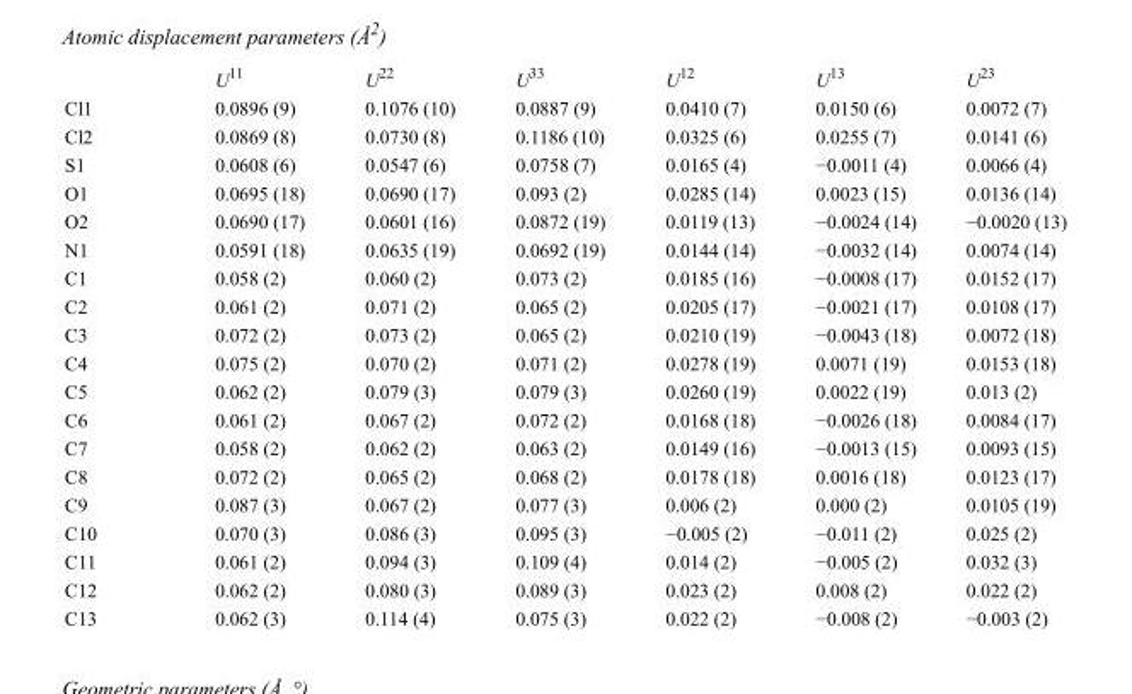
<table><thead><tr><td></td><td>U<sup>11</sup></td><td>U<sup>22</sup></td><td>U<sup>33</sup></td><td>U<sup>12</sup></td><td>U<sup>13</sup></td><td>U<sup>23</sup></td></tr></thead><tbody><tr><td>Cl1</td><td>0.0896 (9)</td><td>0.1076 (10)</td><td>0.0887 (9)</td><td>0.0410 (7)</td><td>0.0150 (6)</td><td>0.0072 (7)</td></tr><tr><td>Cl2</td><td>0.0869 (8)</td><td>0.0730 (8)</td><td>0.1186 (10)</td><td>0.0325 (6)</td><td>0.0255 (7)</td><td>0.0141 (6)</td></tr><tr><td>S1</td><td>0.0608 (6)</td><td>0.0547 (6)</td><td>0.0758 (7)</td><td>0.0165 (4)</td><td>−0.0011 (4)</td><td>0.0066 (4)</td></tr><tr><td>O1</td><td>0.0695 (18)</td><td>0.0690 (17)</td><td>0.093 (2)</td><td>0.0285 (14)</td><td>0.0023 (15)</td><td>0.0136 (14)</td></tr><tr><td>O2</td><td>0.0690 (17)</td><td>0.0601 (16)</td><td>0.0872 (19)</td><td>0.0119 (13)</td><td>−0.0024 (14)</td><td>−0.0020 (13)</td></tr><tr><td>N1</td><td>0.0591 (18)</td><td>0.0635 (19)</td><td>0.0692 (19)</td><td>0.0144 (14)</td><td>−0.0032 (14)</td><td>0.0074 (14)</td></tr><tr><td>C1</td><td>0.058 (2)</td><td>0.060 (2)</td><td>0.073 (2)</td><td>0.0185 (16)</td><td>−0.0008 (17)</td><td>0.0152 (17)</td></tr><tr><td>C2</td><td>0.061 (2)</td><td>0.071 (2)</td><td>0.065 (2)</td><td>0.0205 (17)</td><td>−0.0021 (17)</td><td>0.0108 (17)</td></tr><tr><td>C3</td><td>0.072 (2)</td><td>0.073 (2)</td><td>0.065 (2)</td><td>0.0210 (19)</td><td>−0.0043 (18)</td><td>0.0072 (18)</td></tr><tr><td>C4</td><td>0.075 (2)</td><td>0.070 (2)</td><td>0.071 (2)</td><td>0.0278 (19)</td><td>0.0071 (19)</td><td>0.0153 (18)</td></tr><tr><td>C5</td><td>0.062 (2)</td><td>0.079 (3)</td><td>0.079 (3)</td><td>0.0260 (19)</td><td>0.0022 (19)</td><td>0.013 (2)</td></tr><tr><td>C6</td><td>0.061 (2)</td><td>0.067 (2)</td><td>0.072 (2)</td><td>0.0168 (18)</td><td>−0.0026 (18)</td><td>0.0084 (17)</td></tr><tr><td>C7</td><td>0.058 (2)</td><td>0.062 (2)</td><td>0.063 (2)</td><td>0.0149 (16)</td><td>−0.0013 (15)</td><td>0.0093 (15)</td></tr><tr><td>C8</td><td>0.072 (2)</td><td>0.065 (2)</td><td>0.068 (2)</td><td>0.0178 (18)</td><td>0.0016 (18)</td><td>0.0123 (17)</td></tr><tr><td>C9</td><td>0.087 (3)</td><td>0.067 (2)</td><td>0.077 (3)</td><td>0.006 (2)</td><td>0.000 (2)</td><td>0.0105 (19)</td></tr><tr><td>C10</td><td>0.070 (3)</td><td>0.086 (3)</td><td>0.095 (3)</td><td>−0.005 (2)</td><td>−0.011 (2)</td><td>0.025 (2)</td></tr><tr><td>C11</td><td>0.061 (2)</td><td>0.094 (3)</td><td>0.109 (4)</td><td>0.014 (2)</td><td>−0.005 (2)</td><td>0.032 (3)</td></tr><tr><td>C12</td><td>0.062 (2)</td><td>0.080 (3)</td><td>0.089 (3)</td><td>0.023 (2)</td><td>0.008 (2)</td><td>0.022 (2)</td></tr><tr><td>C13</td><td>0.062 (3)</td><td>0.114 (4)</td><td>0.075 (3)</td><td>0.022 (2)</td><td>−0.008 (2)</td><td>−0.003 (2)</td></tr></tbody></table>